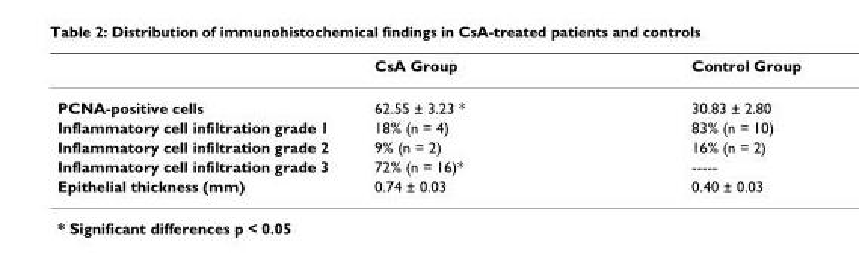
<table><thead><tr><td></td><td>CsA Group</td><td>Control Group</td></tr></thead><tbody><tr><td>PCNA-positive cells</td><td>62.55 ± 3.23 *</td><td>30.83 ± 2.80</td></tr><tr><td>Inflammatory cell infiltration grade 1</td><td>18% (n = 4)</td><td>83% (n = 10)</td></tr><tr><td>Inflammatory cell infiltration grade 2</td><td>9% (n = 2)</td><td>16% (n = 2)</td></tr><tr><td>Inflammatory cell infiltration grade 3</td><td>72% (n = 16)*</td><td>-----</td></tr><tr><td>Epithelial thickness (mm)</td><td>0.74 ± 0.03</td><td>0.40 ± 0.03</td></tr></tbody></table>